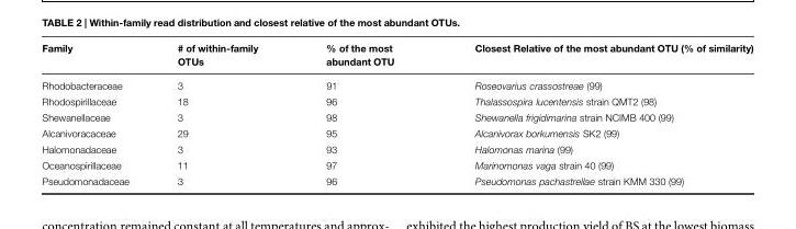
<table><thead><tr><td>Family</td><td># of within-family OTUs</td><td>% of the most abundant OTU</td><td>Closest Relative of the most abundant OTU (% of similarity)</td></tr></thead><tbody><tr><td>Rhodobacteraceae</td><td>3</td><td>91</td><td>Roseovarius crassostreae (99)</td></tr><tr><td>Rhodospirillaceae</td><td>18</td><td>96</td><td>Thalassospira lucentensis strain QMT2 (98)</td></tr><tr><td>Shewanellaceae</td><td>3</td><td>98</td><td>Shewanella frigidimarina strain NCIMB 400 (99)</td></tr><tr><td>Alcanivoracaceae</td><td>29</td><td>95</td><td>Alcanivorax borkumensis SK2 (99)</td></tr><tr><td>Halomonadaceae</td><td>3</td><td>93</td><td>Halomonas marina (99)</td></tr><tr><td>Oceanospirillaceae</td><td>11</td><td>97</td><td>Marinomonas vaga strain 40 (99)</td></tr><tr><td>Pseudomonadaceae</td><td>3</td><td>96</td><td>Pseudomonas pachastrellae strain KMM 330 (99)</td></tr></tbody></table>